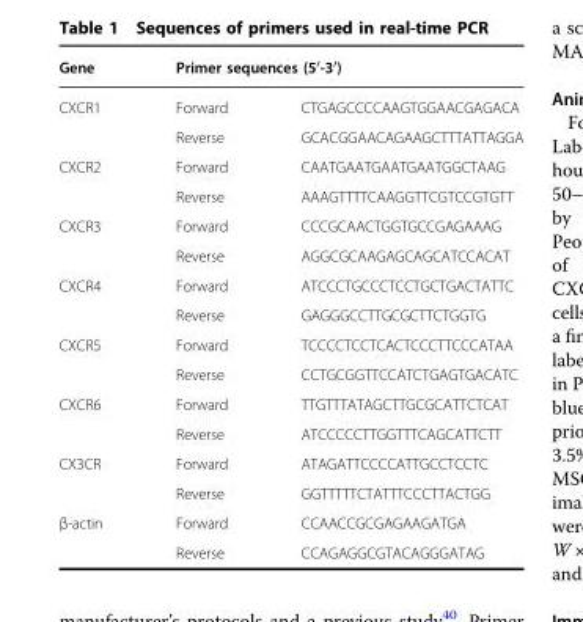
<table><thead><tr><td rowspan="2">Gene CXCR1</td><td colspan="2">Primer sequences (5′-3′)</td></tr><tr><td>Forward</td><td>CTGAGCCCCAAGTGGAACGAGACA</td></tr></thead><tbody><tr><td></td><td>Reverse</td><td>GCACGGAACAGAAGCTTTATTAGGA</td></tr><tr><td rowspan="2">CXCR2</td><td>Forward</td><td>CAATGAATGAATGAATGGCTAAG</td></tr><tr><td>Reverse</td><td>AAAGTTTTCAAGGTTCGTCCGTGTT</td></tr><tr><td rowspan="2">CXCR3</td><td>Forward</td><td>CCCGCAACTGGTGCCGAGAAAG</td></tr><tr><td>Reverse</td><td>AGGCGCAAGAGCAGCATCCACAT</td></tr><tr><td rowspan="2">CXCR4</td><td>Forward</td><td>ATCCCTGCCCTCCTGCTGACTATTC</td></tr><tr><td>Reverse</td><td>GAGGGCCTTGCGCTTCTGGTG</td></tr><tr><td rowspan="2">CXCR5</td><td>Forward</td><td>TCCCCTCCTCACTCCCTTCCCATAA</td></tr><tr><td>Reverse</td><td>CCTGCGGTTCCATCTGAGTGACATC</td></tr><tr><td rowspan="2">CXCR6</td><td>Forward</td><td>TTGTTTATAGCTTGCGCATTCTCAT</td></tr><tr><td>Reverse</td><td>ATCCCCCTTGGTTTCAGCATTCTT</td></tr><tr><td rowspan="2">CX3CR</td><td>Forward</td><td>ATAGATTCCCCATTGCCTCCTC</td></tr><tr><td>Reverse</td><td>GGTTTTTCTATTTCCCTTACTGG</td></tr><tr><td rowspan="2">β-actin</td><td>Forward</td><td>CCAACCGCGAGAAGATGA</td></tr><tr><td>Reverse</td><td>CCAGAGGCGTACAGGGATAG</td></tr></tbody></table>